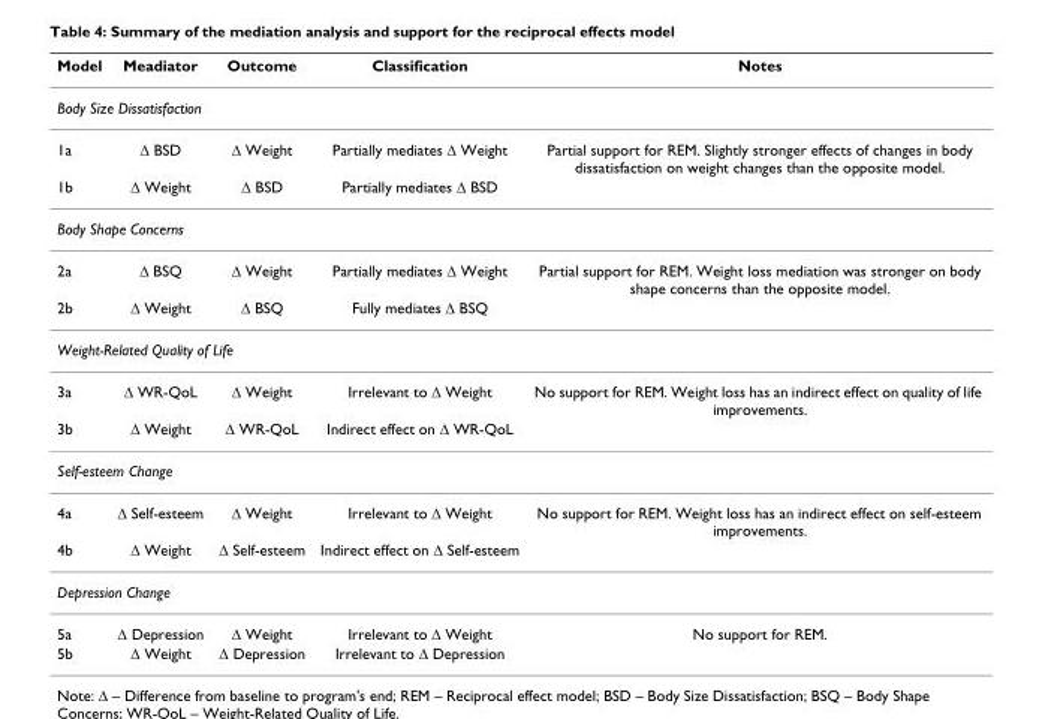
<table><thead><tr><td>Model</td><td>Meadiator</td><td>Outcome</td><td>Classification</td><td>Notes</td></tr></thead><tbody><tr><td colspan="5">Body Size Dissatisfaction</td></tr><tr><td>1a</td><td>Δ BSD</td><td>Δ Weight</td><td>Partially mediates Δ Weight</td><td>Partial support for REM. Slightly stronger effects of changes in body dissatisfaction on weight changes than the opposite model.</td></tr><tr><td>1b</td><td>Δ Weight</td><td>Δ BSD</td><td>Partially mediates Δ BSD</td><td></td></tr><tr><td colspan="5">Body Shape Concerns</td></tr><tr><td>2a</td><td>Δ BSQ</td><td>Δ Weight</td><td>Partially mediates Δ Weight</td><td>Partial support for REM. Weight loss mediation was stronger on body shape concerns than the opposite model.</td></tr><tr><td>2b</td><td>Δ Weight</td><td>Δ BSQ</td><td>Fully mediates Δ BSQ</td><td></td></tr><tr><td colspan="5">Weight-Related Quality of Life</td></tr><tr><td>3a</td><td>Δ WR-QoL</td><td>Δ Weight</td><td>Irrelevant to Δ Weight</td><td>No support for REM. Weight loss has an indirect effect on quality of life improvements.</td></tr><tr><td>3b</td><td>Δ Weight</td><td>Δ WR-QoL</td><td>Indirect effect on Δ WR-QoL</td><td></td></tr><tr><td colspan="5">Self-esteem Change</td></tr><tr><td>4a</td><td>Δ Self-esteem</td><td>Δ Weight</td><td>Irrelevant to Δ Weight</td><td>No support for REM. Weight loss has an indirect effect on self-esteem improvements.</td></tr><tr><td>4b</td><td>Δ Weight</td><td>Δ Self-esteem</td><td>Indirect effect on Δ Self-esteem</td><td></td></tr><tr><td colspan="5">Depression Change</td></tr><tr><td>5a</td><td>Δ Depression</td><td>Δ Weight</td><td>Irrelevant to Δ Weight</td><td>No support for REM.</td></tr><tr><td>5b</td><td>Δ Weight</td><td>Δ Depression</td><td>Irrelevant to Δ Depression</td><td></td></tr></tbody></table>